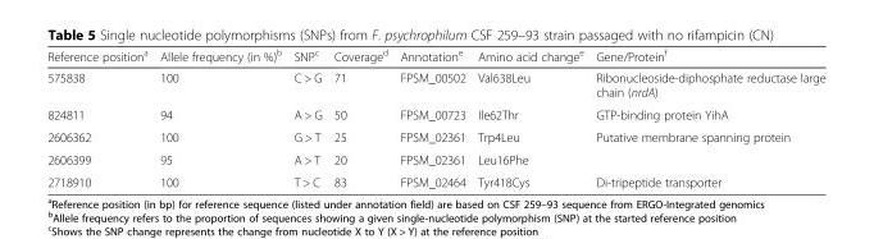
<table><thead><tr><td>Reference position<sup>a</sup></td><td>Allele frequency (in %)<sup>b</sup></td><td>SNP<sup>c</sup></td><td>Coverage<sup>d</sup></td><td>Annotation<sup>e</sup></td><td>Amino acid change<sup>e</sup></td><td>Gene/Protein<sup>f</sup></td></tr></thead><tbody><tr><td>575838</td><td>100</td><td>C &gt; G</td><td>71</td><td>FPSM_00502</td><td>Val638Leu</td><td>Ribonucleoside-diphosphate reductase large chain (nrdA)</td></tr><tr><td>824811</td><td>94</td><td>A &gt; G</td><td>50</td><td>FPSM_00723</td><td>Ile62Thr</td><td>GTP-binding protein YihA</td></tr><tr><td>2606362</td><td>100</td><td>G &gt; T</td><td>25</td><td>FPSM_02361</td><td>Trp4Leu</td><td rowspan="2">Putative membrane spanning protein</td></tr><tr><td>2606399</td><td>95</td><td>A &gt; T</td><td>20</td><td>FPSM_02361</td><td>Leu16Phe</td></tr><tr><td>2718910</td><td>100</td><td>T &gt; C</td><td>83</td><td>FPSM_02464</td><td>Tyr418Cys</td><td>Di-tripeptide transporter</td></tr></tbody></table>